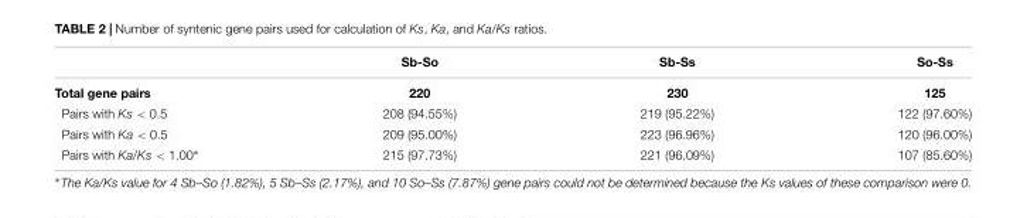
<table><thead><tr><td></td><td>Sb-So</td><td>Sb-Ss</td><td>So-Ss</td></tr></thead><tbody><tr><td>Total gene pairs</td><td>220</td><td>230</td><td>125</td></tr><tr><td>Pairs with Ks &lt; 0.5</td><td>208 (94.55%)</td><td>219 (95.22%)</td><td>122 (97.60%)</td></tr><tr><td>Pairs with Ka &lt; 0.5</td><td>209 (95.00%)</td><td>223 (96.96%)</td><td>120 (96.00%)</td></tr><tr><td>Pairs with Ka/Ks &lt; 1.00∗</td><td>215 (97.73%)</td><td>221 (96.09%)</td><td>107 (85.60%)</td></tr></tbody></table>